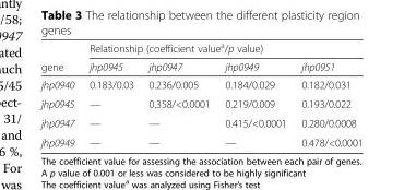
<table><thead><tr><td rowspan="2">gene</td><td colspan="4">Relationship (coefficient value<sup>a</sup>/p value)</td></tr><tr><td>jhp0945</td><td>jhp0947</td><td>jhp0949</td><td>jhp0951</td></tr></thead><tbody><tr><td>jhp0940</td><td>0.183/0.03</td><td>0.236/0.005</td><td>0.184/0.029</td><td>0.182/0.031</td></tr><tr><td>jhp0945</td><td>—</td><td>0.358/&lt;0.0001</td><td>0.219/0.009</td><td>0.193/0.022</td></tr><tr><td>jhp0947</td><td>—</td><td>—</td><td>0.415/&lt;0.0001</td><td>0.280/0.0008</td></tr><tr><td>jhp0949</td><td>—</td><td>—</td><td>—</td><td>0.478/&lt;0.0001</td></tr></tbody></table>